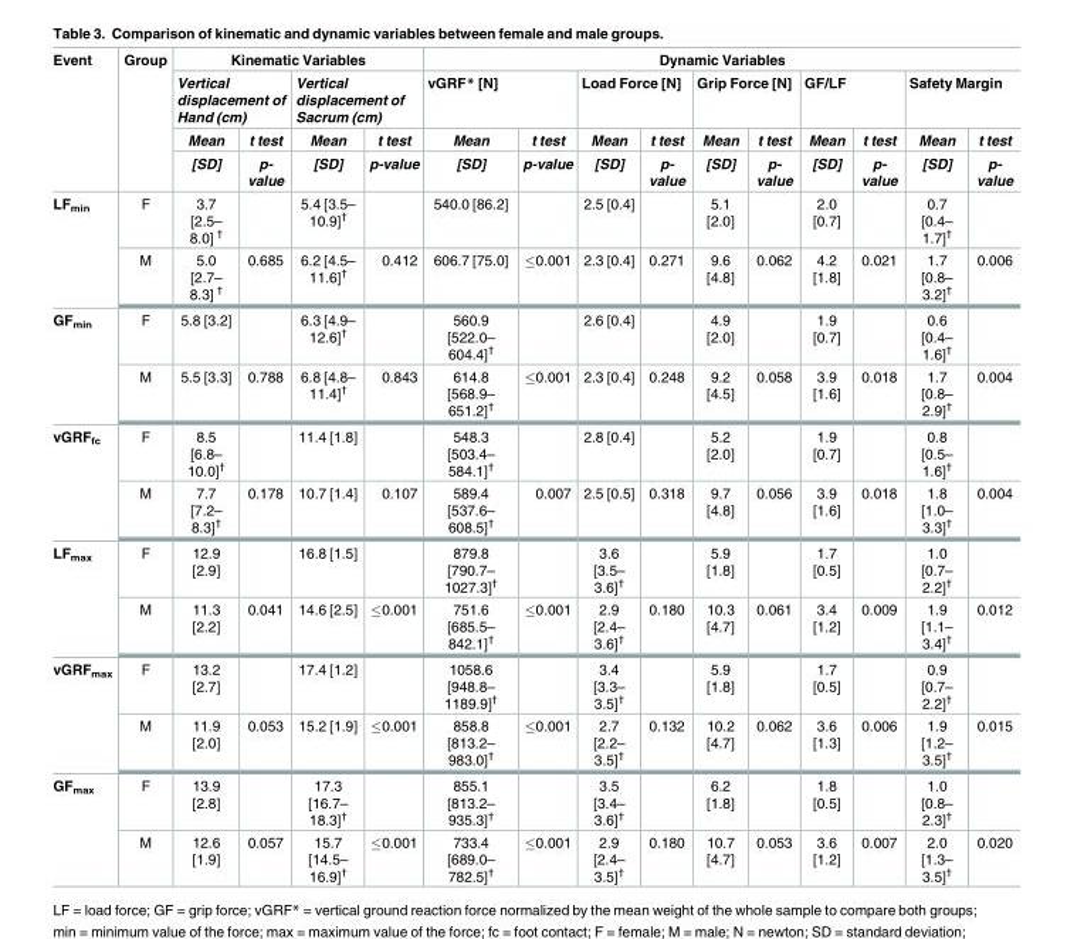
<table><thead><tr><td rowspan="4">Event</td><td rowspan="4">Group</td><td colspan="4">Kinematic Variables</td><td colspan="10">Dynamic Variables</td></tr><tr><td colspan="2">Vertical displacement of Hand (cm)</td><td colspan="2">Vertical displacement of Sacrum (cm)</td><td colspan="2">vGRF* [N]</td><td colspan="2">Load Force [N]</td><td colspan="2">Grip Force [N]</td><td colspan="2">GF/LF</td><td colspan="2">Safety Margin</td></tr><tr><td rowspan="2">Mean [SD]</td><td rowspan="2">t test p- value</td><td rowspan="2">Mean [SD]</td><td rowspan="2">t test p-value</td><td rowspan="2">Mean [SD]</td><td rowspan="2">t test p-value</td><td rowspan="2">Mean [SD]</td><td rowspan="2">t test p- value</td><td rowspan="2">Mean [SD]</td><td rowspan="2">t test p- value</td><td rowspan="2">Mean [SD]</td><td rowspan="2">t test p- value</td><td rowspan="2">Mean [SD]</td><td rowspan="2">t test p- value</td></tr><tr></tr></thead><tbody><tr><td rowspan="2">LF<sub>min</sub></td><td>F</td><td>3.7 [2.5– 8.0] <sup>†</sup></td><td></td><td>5.4 [3.5– 10.9]<sup>†</sup></td><td></td><td>540.0 [86.2]</td><td></td><td>2.5 [0.4]</td><td></td><td>5.1 [2.0]</td><td></td><td>2.0 [0.7]</td><td></td><td>0.7 [0.4– 1.7]<sup>†</sup></td><td></td></tr><tr><td>M</td><td>5.0 [2.7– 8.3] <sup>†</sup></td><td>0.685</td><td>6.2 [4.5– 11.6]<sup>†</sup></td><td>0.412</td><td>606.7 [75.0]</td><td>≤0.001</td><td>2.3 [0.4]</td><td>0.271</td><td>9.6 [4.8]</td><td>0.062</td><td>4.2 [1.8]</td><td>0.021</td><td>1.7 [0.8– 3.2]<sup>†</sup></td><td>0.006</td></tr><tr><td rowspan="2">GF<sub>min</sub></td><td>F</td><td>5.8 [3.2]</td><td></td><td>6.3 [4.9– 12.6]<sup>†</sup></td><td></td><td>560.9 [522.0– 604.4]<sup>†</sup></td><td></td><td>2.6 [0.4]</td><td></td><td>4.9 [2.0]</td><td></td><td>1.9 [0.7]</td><td></td><td>0.6 [0.4– 1.6]<sup>†</sup></td><td></td></tr><tr><td>M</td><td>5.5 [3.3]</td><td>0.788</td><td>6.8 [4.8– 11.4]<sup>†</sup></td><td>0.843</td><td>614.8 [568.9– 651.2]<sup>†</sup></td><td>≤0.001</td><td>2.3 [0.4]</td><td>0.248</td><td>9.2 [4.5]</td><td>0.058</td><td>3.9 [1.6]</td><td>0.018</td><td>1.7 [0.8– 2.9]<sup>†</sup></td><td>0.004</td></tr><tr><td rowspan="2">vGRF<sub>fc</sub></td><td>F</td><td>8.5 [6.8– 10.0]<sup>†</sup></td><td></td><td>11.4 [1.8]</td><td></td><td>548.3 [503.4– 584.1]<sup>†</sup></td><td></td><td>2.8 [0.4]</td><td></td><td>5.2 [2.0]</td><td></td><td>1.9 [0.7]</td><td></td><td>0.8 [0.5– 1.6]<sup>†</sup></td><td></td></tr><tr><td>M</td><td>7.7 [7.2– 8.3]<sup>†</sup></td><td>0.178</td><td>10.7 [1.4]</td><td>0.107</td><td>589.4 [537.6– 608.5]<sup>†</sup></td><td>0.007</td><td>2.5 [0.5]</td><td>0.318</td><td>9.7 [4.8]</td><td>0.056</td><td>3.9 [1.6]</td><td>0.018</td><td>1.8 [1.0– 3.3]<sup>†</sup></td><td>0.004</td></tr><tr><td rowspan="2">LF<sub>max</sub></td><td>F</td><td>12.9 [2.9]</td><td></td><td>16.8 [1.5]</td><td></td><td>879.8 [790.7– 1027.3]<sup>†</sup></td><td></td><td>3.6 [3.5– 3.6]<sup>†</sup></td><td></td><td>5.9 [1.8]</td><td></td><td>1.7 [0.5]</td><td></td><td>1.0 [0.7– 2.2]<sup>†</sup></td><td></td></tr><tr><td>M</td><td>11.3 [2.2]</td><td>0.041</td><td>14.6 [2.5]</td><td>≤0.001</td><td>751.6 [685.5– 842.1]<sup>†</sup></td><td>≤0.001</td><td>2.9 [2.4– 3.6]<sup>†</sup></td><td>0.180</td><td>10.3 [4.7]</td><td>0.061</td><td>3.4 [1.2]</td><td>0.009</td><td>1.9 [1.1– 3.4]<sup>†</sup></td><td>0.012</td></tr><tr><td rowspan="2">vGRF<sub>max</sub></td><td>F</td><td>13.2 [2.7]</td><td></td><td>17.4 [1.2]</td><td></td><td>1058.6 [948.8– 1189.9]<sup>†</sup></td><td></td><td>3.4 [3.3– 3.5]<sup>†</sup></td><td></td><td>5.9 [1.8]</td><td></td><td>1.7 [0.5]</td><td></td><td>0.9 [0.7– 2.2]<sup>†</sup></td><td></td></tr><tr><td>M</td><td>11.9 [2.0]</td><td>0.053</td><td>15.2 [1.9]</td><td>≤0.001</td><td>858.8 [813.2– 983.0]<sup>†</sup></td><td>≤0.001</td><td>2.7 [2.2– 3.5]<sup>†</sup></td><td>0.132</td><td>10.2 [4.7]</td><td>0.062</td><td>3.6 [1.3]</td><td>0.006</td><td>1.9 [1.2– 3.5]<sup>†</sup></td><td>0.015</td></tr><tr><td rowspan="2">GF<sub>max</sub></td><td>F</td><td>13.9 [2.8]</td><td></td><td>17.3 [16.7– 18.3]<sup>†</sup></td><td></td><td>855.1 [813.2– 935.3]<sup>†</sup></td><td></td><td>3.5 [3.4– 3.6]<sup>†</sup></td><td></td><td>6.2 [1.8]</td><td></td><td>1.8 [0.5]</td><td></td><td>1.0 [0.8– 2.3]<sup>†</sup></td><td></td></tr><tr><td>M</td><td>12.6 [1.9]</td><td>0.057</td><td>15.7 [14.5– 16.9]<sup>†</sup></td><td>≤0.001</td><td>733.4 [689.0– 782.5]<sup>†</sup></td><td>≤0.001</td><td>2.9 [2.4– 3.5]<sup>†</sup></td><td>0.180</td><td>10.7 [4.7]</td><td>0.053</td><td>3.6 [1.2]</td><td>0.007</td><td>2.0 [1.3– 3.5]<sup>†</sup></td><td>0.020</td></tr></tbody></table>